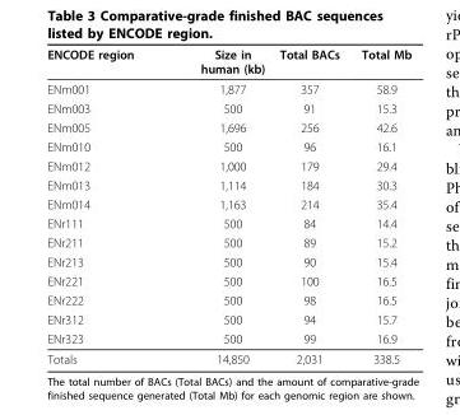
<table><thead><tr><td>ENCODE region</td><td>Size in human (kb)</td><td>Total BACs</td><td>Total Mb</td></tr></thead><tbody><tr><td>ENm001</td><td>1,877</td><td>357</td><td>58.9</td></tr><tr><td>ENm003</td><td>500</td><td>91</td><td>15.3</td></tr><tr><td>ENm005</td><td>1,696</td><td>256</td><td>42.6</td></tr><tr><td>ENm010</td><td>500</td><td>96</td><td>16.1</td></tr><tr><td>ENm012</td><td>1,000</td><td>179</td><td>29.4</td></tr><tr><td>ENm013</td><td>1,114</td><td>184</td><td>30.3</td></tr><tr><td>ENm014</td><td>1,163</td><td>214</td><td>35.4</td></tr><tr><td>ENr111</td><td>500</td><td>84</td><td>14.4</td></tr><tr><td>ENr211</td><td>500</td><td>89</td><td>15.2</td></tr><tr><td>ENr213</td><td>500</td><td>90</td><td>15.4</td></tr><tr><td>ENr221</td><td>500</td><td>100</td><td>16.5</td></tr><tr><td>ENr222</td><td>500</td><td>98</td><td>16.5</td></tr><tr><td>ENr312</td><td>500</td><td>94</td><td>15.7</td></tr><tr><td>ENr323</td><td>500</td><td>99</td><td>16.9</td></tr><tr><td>Totals</td><td>14,850</td><td>2,031</td><td>338.5</td></tr></tbody></table>